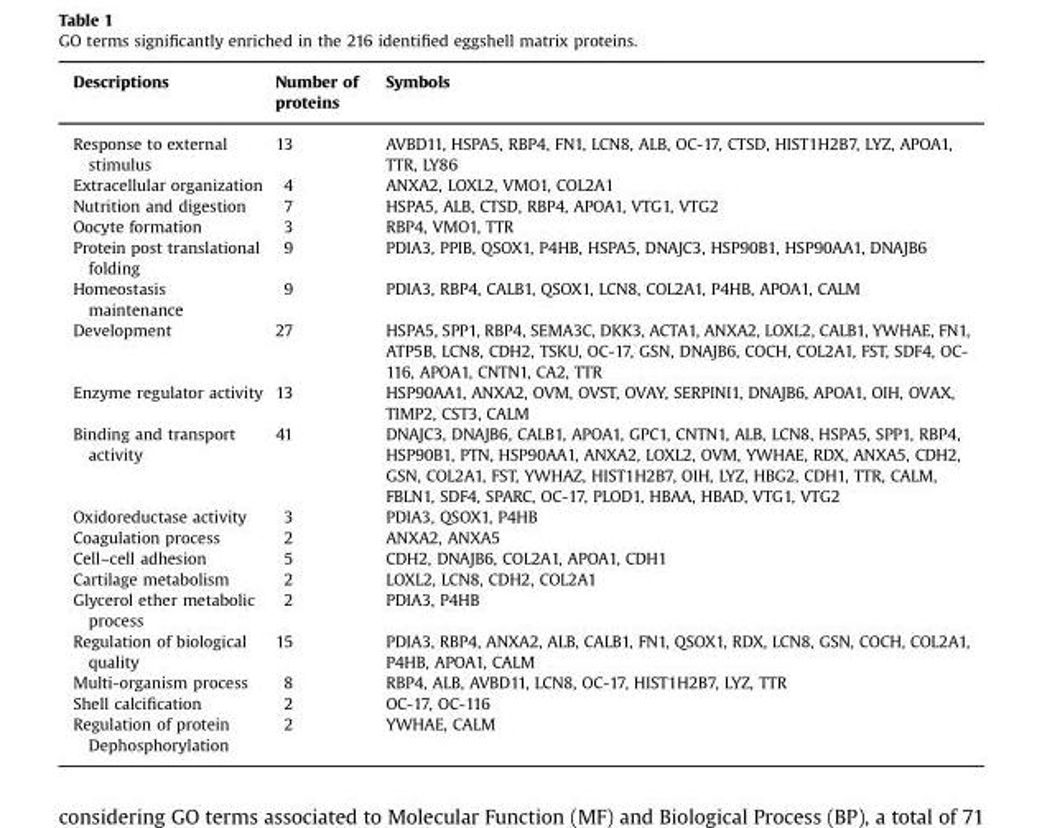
<table><thead><tr><td>Descriptions</td><td>Number of proteins</td><td>Symbols</td></tr></thead><tbody><tr><td>Response to external stimulus</td><td>13</td><td>AVBD11, HSPA5, RBP4, FN1, LCN8, ALB, OC-17, CTSD, HIST1H2B7, LYZ, APOA1, TTR, LY86</td></tr><tr><td>Extracellular organization</td><td>4</td><td>ANXA2, LOXL2, VMO1, COL2A1</td></tr><tr><td>Nutrition and digestion</td><td>7</td><td>HSPA5, ALB, CTSD, RBP4, APOA1, VTG1, VTG2</td></tr><tr><td>Oocyte formation</td><td>3</td><td>RBP4, VMO1, TTR</td></tr><tr><td>Protein post translational folding</td><td>9</td><td>PDIA3, PPIB, QSOX1, P4HB, HSPA5, DNAJC3, HSP90B1, HSP90AA1, DNAJB6</td></tr><tr><td>Homeostasis maintenance</td><td>9</td><td>PDIA3, RBP4, CALB1, QSOX1, LCN8, COL2A1, P4HB, APOA1, CALM</td></tr><tr><td>Development</td><td>27</td><td>HSPA5, SPP1, RBP4, SEMA3C, DKK3, ACTA1, ANXA2, LOXL2, CALB1, YWHAE, FN1, ATP5B, LCN8, CDH2, TSKU, OC-17, GSN, DNAJB6, COCH, COL2A1, FST, SDF4, OC- 116, APOA1, CNTN1, CA2, TTR</td></tr><tr><td>Enzyme regulator activity</td><td>13</td><td>HSP90AA1, ANXA2, OVM, OVST, OVAY, SERPINI1, DNAJB6, APOA1, OIH, OVAX, TIMP2, CST3, CALM</td></tr><tr><td>Binding and transport activity</td><td>41</td><td>DNAJC3, DNAJB6, CALB1, APOA1, GPC1, CNTN1, ALB, LCN8, HSPA5, SPP1, RBP4, HSP90B1, PTN, HSP90AA1, ANXA2, LOXL2, OVM, YWHAE, RDX, ANXA5, CDH2, GSN, COL2A1, FST, YWHAZ, HIST1H2B7, OIH, LYZ, HBG2, CDH1, TTR, CALM, FBLN1, SDF4, SPARC, OC-17, PLOD1, HBAA, HBAD, VTG1, VTG2</td></tr><tr><td>Oxidoreductase activity</td><td>3</td><td>PDIA3, QSOX1, P4HB</td></tr><tr><td>Coagulation process</td><td>2</td><td>ANXA2, ANXA5</td></tr><tr><td>Cell–cell adhesion</td><td>5</td><td>CDH2, DNAJB6, COL2A1, APOA1, CDH1</td></tr><tr><td>Cartilage metabolism</td><td>2</td><td>LOXL2, LCN8, CDH2, COL2A1</td></tr><tr><td>Glycerol ether metabolic process</td><td>2</td><td>PDIA3, P4HB</td></tr><tr><td>Regulation of biological quality</td><td>15</td><td>PDIA3, RBP4, ANXA2, ALB, CALB1, FN1, QSOX1, RDX, LCN8, GSN, COCH, COL2A1, P4HB, APOA1, CALM</td></tr><tr><td>Multi-organism process</td><td>8</td><td>RBP4, ALB, AVBD11, LCN8, OC-17, HIST1H2B7, LYZ, TTR</td></tr><tr><td>Shell calcification</td><td>2</td><td>OC-17, OC-116</td></tr><tr><td>Regulation of protein Dephosphorylation</td><td>2</td><td>YWHAE, CALM</td></tr></tbody></table>